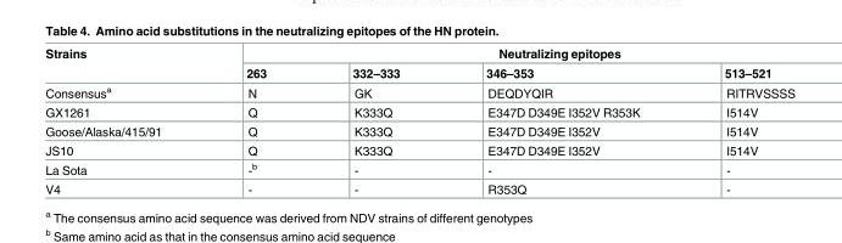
<table><thead><tr><td rowspan="2">Strains</td><td colspan="4">Neutralizing epitopes</td></tr><tr><td>263</td><td>332–333</td><td>346–353</td><td>513–521</td></tr></thead><tbody><tr><td>Consensus<sup>a</sup></td><td>N</td><td>GK</td><td>DEQDYQIR</td><td>RITRVSSSS</td></tr><tr><td>GX1261</td><td>Q</td><td>K333Q</td><td>E347D D349E I352V R353K</td><td>I514V</td></tr><tr><td>Goose/Alaska/415/91</td><td>Q</td><td>K333Q</td><td>E347D D349E I352V</td><td>I514V</td></tr><tr><td>JS10</td><td>Q</td><td>K333Q</td><td>E347D D349E I352V</td><td>I514V</td></tr><tr><td>La Sota</td><td>-<sup>b</sup></td><td>-</td><td>-</td><td>-</td></tr><tr><td>V4</td><td>-</td><td>-</td><td>R353Q</td><td>-</td></tr></tbody></table>